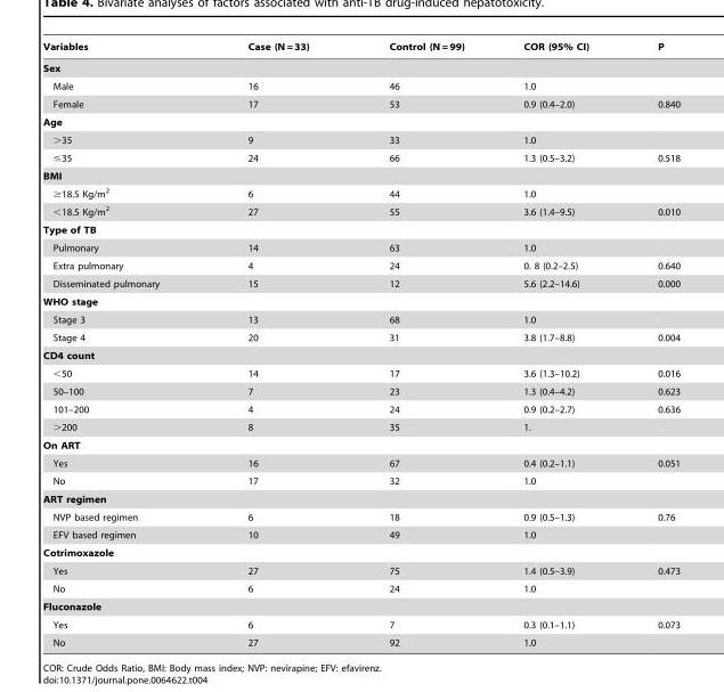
<table><thead><tr><td>Variables</td><td>Case (N = 33)</td><td>Control (N = 99)</td><td>COR (95% CI)</td><td>P</td></tr></thead><tbody><tr><td colspan="5">Sex</td></tr><tr><td>Male</td><td>16</td><td>46</td><td>1.0</td><td></td></tr><tr><td>Female</td><td>17</td><td>53</td><td>0.9 (0.4–2.0)</td><td>0.840</td></tr><tr><td colspan="5">Age</td></tr><tr><td>&gt;35</td><td>9</td><td>33</td><td>1.0</td><td></td></tr><tr><td>≤35</td><td>24</td><td>66</td><td>1.3 (0.5–3.2)</td><td>0.518</td></tr><tr><td colspan="5">BMI</td></tr><tr><td>≥18.5 Kg/m<sup>2</sup></td><td>6</td><td>44</td><td>1.0</td><td></td></tr><tr><td>&lt;18.5 Kg/m<sup>2</sup></td><td>27</td><td>55</td><td>3.6 (1.4–9.5)</td><td>0.010</td></tr><tr><td colspan="5">Type of TB</td></tr><tr><td>Pulmonary</td><td>14</td><td>63</td><td>1.0</td><td></td></tr><tr><td>Extra pulmonary</td><td>4</td><td>24</td><td>0. 8 (0.2–2.5)</td><td>0.640</td></tr><tr><td>Disseminated pulmonary</td><td>15</td><td>12</td><td>5.6 (2.2–14.6)</td><td>0.000</td></tr><tr><td colspan="5">WHO stage</td></tr><tr><td>Stage 3</td><td>13</td><td>68</td><td>1.0</td><td></td></tr><tr><td>Stage 4</td><td>20</td><td>31</td><td>3.8 (1.7–8.8)</td><td>0.004</td></tr><tr><td colspan="5">CD4 count</td></tr><tr><td>&lt;50</td><td>14</td><td>17</td><td>3.6 (1.3–10.2)</td><td>0.016</td></tr><tr><td>50–100</td><td>7</td><td>23</td><td>1.3 (0.4–4.2)</td><td>0.623</td></tr><tr><td>101–200</td><td>4</td><td>24</td><td>0.9 (0.2–2.7)</td><td>0.636</td></tr><tr><td>&gt;200</td><td>8</td><td>35</td><td>1.</td><td></td></tr><tr><td colspan="5">On ART</td></tr><tr><td>Yes</td><td>16</td><td>67</td><td>0.4 (0.2–1.1)</td><td>0.051</td></tr><tr><td>No</td><td>17</td><td>32</td><td>1.0</td><td></td></tr><tr><td colspan="5">ART regimen</td></tr><tr><td>NVP based regimen</td><td>6</td><td>18</td><td>0.9 (0.5–1.3)</td><td>0.76</td></tr><tr><td>EFV based regimen</td><td>10</td><td>49</td><td>1.0</td><td></td></tr><tr><td colspan="5">Cotrimoxazole</td></tr><tr><td>Yes</td><td>27</td><td>75</td><td>1.4 (0.5–3.9)</td><td>0.473</td></tr><tr><td>No</td><td>6</td><td>24</td><td>1.0</td><td></td></tr><tr><td colspan="5">Fluconazole</td></tr><tr><td>Yes</td><td>6</td><td>7</td><td>0.3 (0.1–1.1)</td><td>0.073</td></tr><tr><td>No</td><td>27</td><td>92</td><td>1.0</td><td></td></tr></tbody></table>